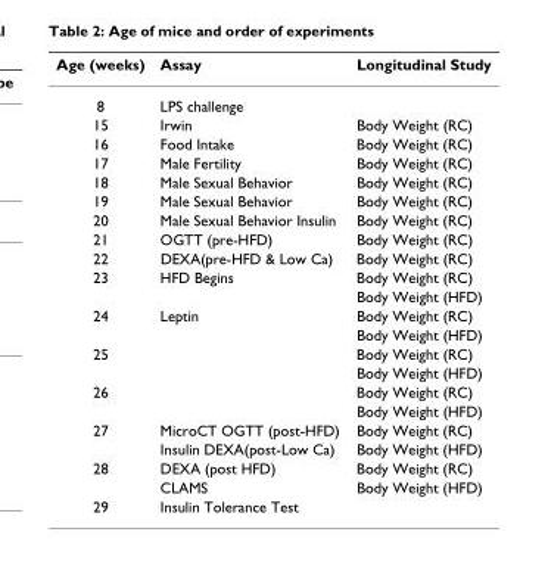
<table><thead><tr><td>Age (weeks)</td><td>Assay</td><td>Longitudinal Study</td></tr></thead><tbody><tr><td>8</td><td>LPS challenge</td><td></td></tr><tr><td>15</td><td>Irwin</td><td>Body Weight (RC)</td></tr><tr><td>16</td><td>Food Intake</td><td>Body Weight (RC)</td></tr><tr><td>17</td><td>Male Fertility</td><td>Body Weight (RC)</td></tr><tr><td>18</td><td>Male Sexual Behavior</td><td>Body Weight (RC)</td></tr><tr><td>19</td><td>Male Sexual Behavior</td><td>Body Weight (RC)</td></tr><tr><td>20</td><td>Male Sexual Behavior Insulin</td><td>Body Weight (RC)</td></tr><tr><td>21</td><td>OGTT (pre-HFD)</td><td>Body Weight (RC)</td></tr><tr><td>22</td><td>DEXA(pre-HFD &amp; Low Ca)</td><td>Body Weight (RC)</td></tr><tr><td rowspan="2">23</td><td>HFD Begins</td><td>Body Weight (RC)</td></tr><tr><td></td><td>Body Weight (HFD)</td></tr><tr><td rowspan="2">24</td><td>Leptin</td><td>Body Weight (RC)</td></tr><tr><td></td><td>Body Weight (HFD)</td></tr><tr><td rowspan="2">25</td><td></td><td>Body Weight (RC)</td></tr><tr><td></td><td>Body Weight (HFD)</td></tr><tr><td rowspan="2">26</td><td></td><td>Body Weight (RC)</td></tr><tr><td></td><td>Body Weight (HFD)</td></tr><tr><td rowspan="2">27</td><td>MicroCT OGTT (post-HFD)</td><td>Body Weight (RC)</td></tr><tr><td>Insulin DEXA(post-Low Ca)</td><td>Body Weight (HFD)</td></tr><tr><td rowspan="2">28</td><td>DEXA (post HFD)</td><td>Body Weight (RC)</td></tr><tr><td>CLAMS</td><td>Body Weight (HFD)</td></tr><tr><td>29</td><td>Insulin Tolerance Test</td><td></td></tr></tbody></table>